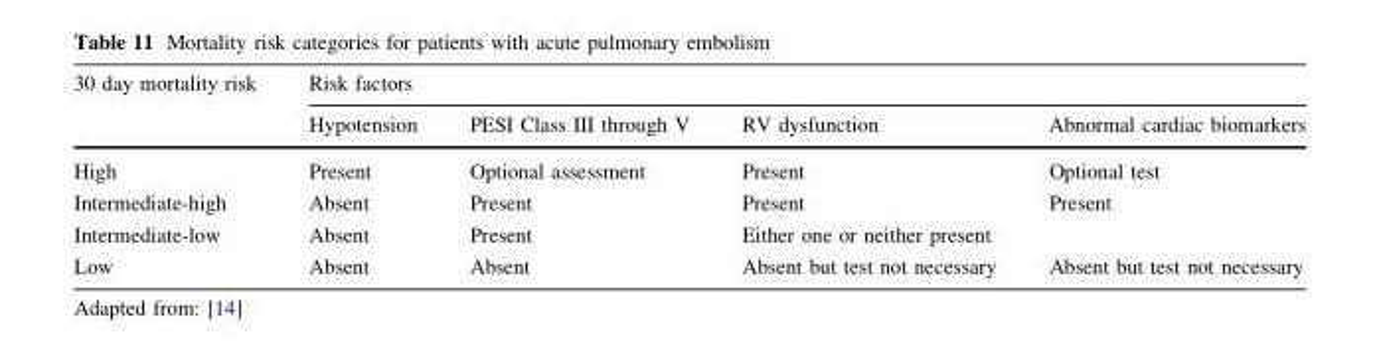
<table><thead><tr><td rowspan="2">30 day mortality risk</td><td colspan="4">Risk factors</td></tr><tr><td>Hypotension</td><td>PESI Class III through V</td><td>RV dysfunction</td><td>Abnormal cardiac biomarkers</td></tr></thead><tbody><tr><td>High</td><td>Present</td><td>Optional assessment</td><td>Present</td><td>Optional test</td></tr><tr><td>Intermediate-high</td><td>Absent</td><td>Present</td><td>Present</td><td>Present</td></tr><tr><td>Intermediate-low</td><td>Absent</td><td>Present</td><td colspan="2">Either one or neither present</td></tr><tr><td>Low</td><td>Absent</td><td>Absent</td><td>Absent but test not necessary</td><td>Absent but test not necessary</td></tr></tbody></table>